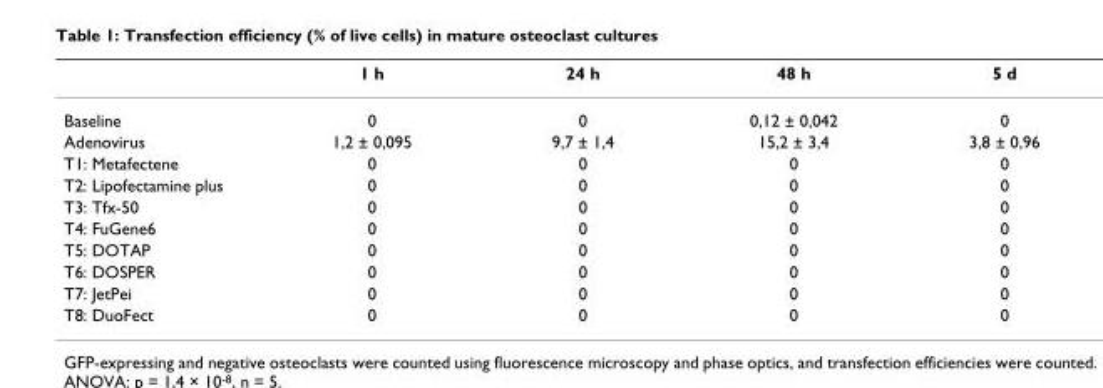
<table><thead><tr><td></td><td>1 h</td><td>24 h</td><td>48 h</td><td>5 d</td></tr></thead><tbody><tr><td>Baseline</td><td>0</td><td>0</td><td>0,12 ± 0,042</td><td>0</td></tr><tr><td>Adenovirus</td><td>1,2 ± 0,095</td><td>9,7 ± 1,4</td><td>15,2 ± 3,4</td><td>3,8 ± 0,96</td></tr><tr><td>T1: Metafectene</td><td>0</td><td>0</td><td>0</td><td>0</td></tr><tr><td>T2: Lipofectamine plus</td><td>0</td><td>0</td><td>0</td><td>0</td></tr><tr><td>T3: Tfx-50</td><td>0</td><td>0</td><td>0</td><td>0</td></tr><tr><td>T4: FuGene6</td><td>0</td><td>0</td><td>0</td><td>0</td></tr><tr><td>T5: DOTAP</td><td>0</td><td>0</td><td>0</td><td>0</td></tr><tr><td>T6: DOSPER</td><td>0</td><td>0</td><td>0</td><td>0</td></tr><tr><td>T7: JetPei</td><td>0</td><td>0</td><td>0</td><td>0</td></tr><tr><td>T8: DuoFect</td><td>0</td><td>0</td><td>0</td><td>0</td></tr></tbody></table>